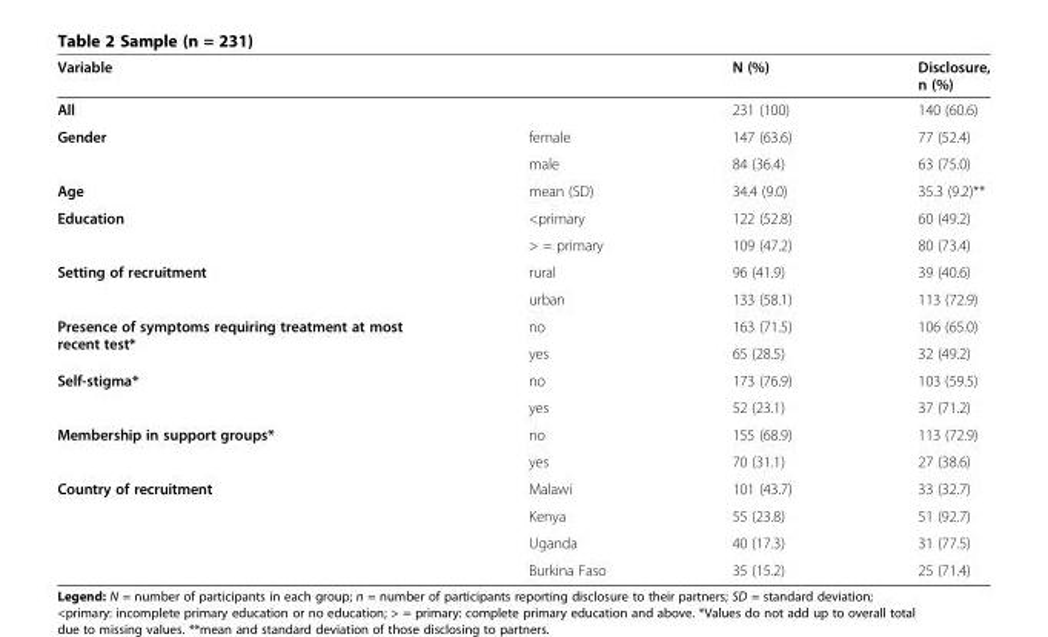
<table><thead><tr><td>Variable</td><td></td><td>N (%)</td><td>Disclosure, n (%)</td></tr></thead><tbody><tr><td>All</td><td></td><td>231 (100)</td><td>140 (60.6)</td></tr><tr><td rowspan="2">Gender</td><td>female</td><td>147 (63.6)</td><td>77 (52.4)</td></tr><tr><td>male</td><td>84 (36.4)</td><td>63 (75.0)</td></tr><tr><td>Age</td><td>mean (SD)</td><td>34.4 (9.0)</td><td>35.3 (9.2)**</td></tr><tr><td rowspan="2">Education</td><td>&lt;primary</td><td>122 (52.8)</td><td>60 (49.2)</td></tr><tr><td>&gt; = primary</td><td>109 (47.2)</td><td>80 (73.4)</td></tr><tr><td rowspan="2">Setting of recruitment</td><td>rural</td><td>96 (41.9)</td><td>39 (40.6)</td></tr><tr><td>urban</td><td>133 (58.1)</td><td>113 (72.9)</td></tr><tr><td rowspan="2">Presence of symptoms requiring treatment at most recent test*</td><td>no</td><td>163 (71.5)</td><td>106 (65.0)</td></tr><tr><td>yes</td><td>65 (28.5)</td><td>32 (49.2)</td></tr><tr><td rowspan="2">Self-stigma*</td><td>no</td><td>173 (76.9)</td><td>103 (59.5)</td></tr><tr><td>yes</td><td>52 (23.1)</td><td>37 (71.2)</td></tr><tr><td rowspan="2">Membership in support groups*</td><td>no</td><td>155 (68.9)</td><td>113 (72.9)</td></tr><tr><td>yes</td><td>70 (31.1)</td><td>27 (38.6)</td></tr><tr><td rowspan="4">Country of recruitment</td><td>Malawi</td><td>101 (43.7)</td><td>33 (32.7)</td></tr><tr><td>Kenya</td><td>55 (23.8)</td><td>51 (92.7)</td></tr><tr><td>Uganda</td><td>40 (17.3)</td><td>31 (77.5)</td></tr><tr><td>Burkina Faso</td><td>35 (15.2)</td><td>25 (71.4)</td></tr></tbody></table>